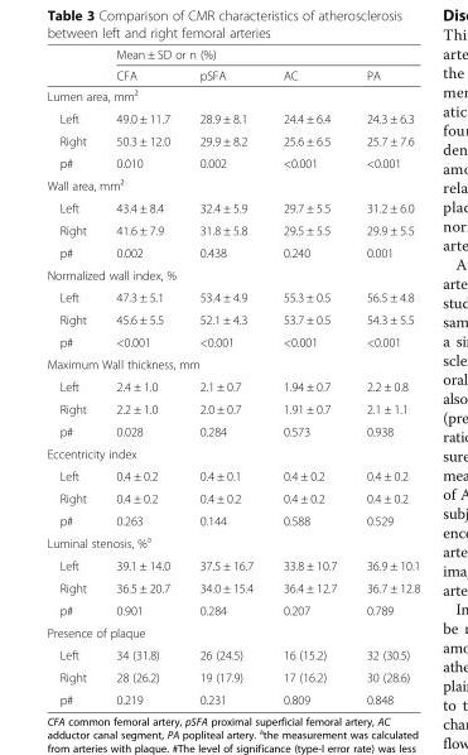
<table><thead><tr><td rowspan="2"></td><td colspan="4">Mean ± SD or n (%)</td></tr><tr><td>CFA</td><td>pSFA</td><td>AC</td><td>PA</td></tr></thead><tbody><tr><td colspan="5">Lumen area, mm²</td></tr><tr><td>Left</td><td>49.0 ± 11.7</td><td>28.9 ± 8.1</td><td>24.4 ± 6.4</td><td>24.3 ± 6.3</td></tr><tr><td>Right</td><td>50.3 ± 12.0</td><td>29.9 ± 8.2</td><td>25.6 ± 6.5</td><td>25.7 ± 7.6</td></tr><tr><td>p#</td><td>0.010</td><td>0.002</td><td>&lt;0.001</td><td>&lt;0.001</td></tr><tr><td colspan="5">Wall area, mm²</td></tr><tr><td>Left</td><td>43.4 ± 8.4</td><td>32.4 ± 5.9</td><td>29.7 ± 5.5</td><td>31.2 ± 6.0</td></tr><tr><td>Right</td><td>41.6 ± 7.9</td><td>31.8 ± 5.8</td><td>29.5 ± 5.5</td><td>29.9 ± 5.5</td></tr><tr><td>p#</td><td>0.002</td><td>0.438</td><td>0.240</td><td>0.001</td></tr><tr><td colspan="5">Normalized wall index, %</td></tr><tr><td>Left</td><td>47.3 ± 5.1</td><td>53.4 ± 4.9</td><td>55.3 ± 0.5</td><td>56.5 ± 4.8</td></tr><tr><td>Right</td><td>45.6 ± 5.5</td><td>52.1 ± 4.3</td><td>53.7 ± 0.5</td><td>54.3 ± 5.5</td></tr><tr><td>p#</td><td>&lt;0.001</td><td>&lt;0.001</td><td>&lt;0.001</td><td>&lt;0.001</td></tr><tr><td colspan="5">Maximum Wall thickness, mm</td></tr><tr><td>Left</td><td>2.4 ± 1.0</td><td>2.1 ± 0.7</td><td>1.94 ± 0.7</td><td>2.2 ± 0.8</td></tr><tr><td>Right</td><td>2.2 ± 1.0</td><td>2.0 ± 0.7</td><td>1.91 ± 0.7</td><td>2.1 ± 1.1</td></tr><tr><td>p#</td><td>0.028</td><td>0.284</td><td>0.573</td><td>0.938</td></tr><tr><td colspan="5">Eccentricity index</td></tr><tr><td>Left</td><td>0.4 ± 0.2</td><td>0.4 ± 0.1</td><td>0.4 ± 0.2</td><td>0.4 ± 0.2</td></tr><tr><td>Right</td><td>0.4 ± 0.2</td><td>0.4 ± 0.2</td><td>0.4 ± 0.2</td><td>0.4 ± 0.2</td></tr><tr><td>p#</td><td>0.263</td><td>0.144</td><td>0.588</td><td>0.529</td></tr><tr><td colspan="5">Luminal stenosis, %<sup>a</sup></td></tr><tr><td>Left</td><td>39.1 ± 14.0</td><td>37.5 ± 16.7</td><td>33.8 ± 10.7</td><td>36.9 ± 10.1</td></tr><tr><td>Right</td><td>36.5 ± 20.7</td><td>34.0 ± 15.4</td><td>36.4 ± 12.7</td><td>36.7 ± 12.8</td></tr><tr><td>p#</td><td>0.901</td><td>0.284</td><td>0.207</td><td>0.789</td></tr><tr><td colspan="5">Presence of plaque</td></tr><tr><td>Left</td><td>34 (31.8)</td><td>26 (24.5)</td><td>16 (15.2)</td><td>32 (30.5)</td></tr><tr><td>Right</td><td>28 (26.2)</td><td>19 (17.9)</td><td>17 (16.2)</td><td>30 (28.6)</td></tr><tr><td>p#</td><td>0.219</td><td>0.231</td><td>0.809</td><td>0.848</td></tr></tbody></table>